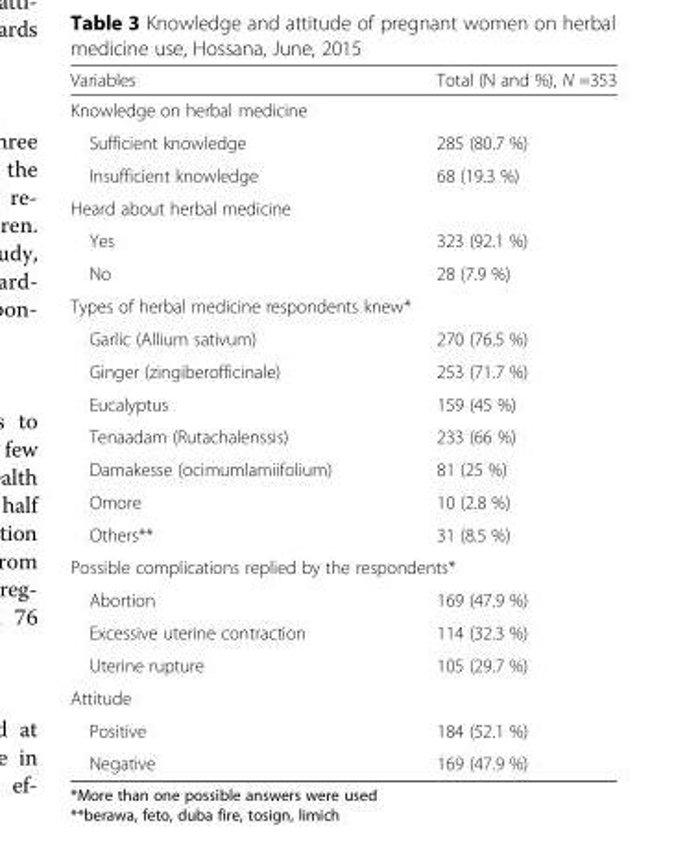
<table><thead><tr><td>Variables</td><td>Total (N and %), N =353</td></tr></thead><tbody><tr><td colspan="2">Knowledge on herbal medicine</td></tr><tr><td>Sufficient knowledge</td><td>285 (80.7 %)</td></tr><tr><td>Insufficient knowledge</td><td>68 (19.3 %)</td></tr><tr><td colspan="2">Heard about herbal medicine</td></tr><tr><td>Yes</td><td>323 (92.1 %)</td></tr><tr><td>No</td><td>28 (7.9 %)</td></tr><tr><td colspan="2">Types of herbal medicine respondents knew*</td></tr><tr><td>Garlic (Allium sativum)</td><td>270 (76.5 %)</td></tr><tr><td>Ginger (zingiberofficinale)</td><td>253 (71.7 %)</td></tr><tr><td>Eucalyptus</td><td>159 (45 %)</td></tr><tr><td>Tenaadam (Rutachalenssis)</td><td>233 (66 %)</td></tr><tr><td>Damakesse (ocimumlamiifolium)</td><td>81 (25 %)</td></tr><tr><td>Omore</td><td>10 (2.8 %)</td></tr><tr><td>Others**</td><td>31 (8.5 %)</td></tr><tr><td colspan="2">Possible complications replied by the respondents*</td></tr><tr><td>Abortion</td><td>169 (47.9 %)</td></tr><tr><td>Excessive uterine contraction</td><td>114 (32.3 %)</td></tr><tr><td>Uterine rupture</td><td>105 (29.7 %)</td></tr><tr><td colspan="2">Attitude</td></tr><tr><td>Positive</td><td>184 (52.1 %)</td></tr><tr><td>Negative</td><td>169 (47.9 %)</td></tr></tbody></table>